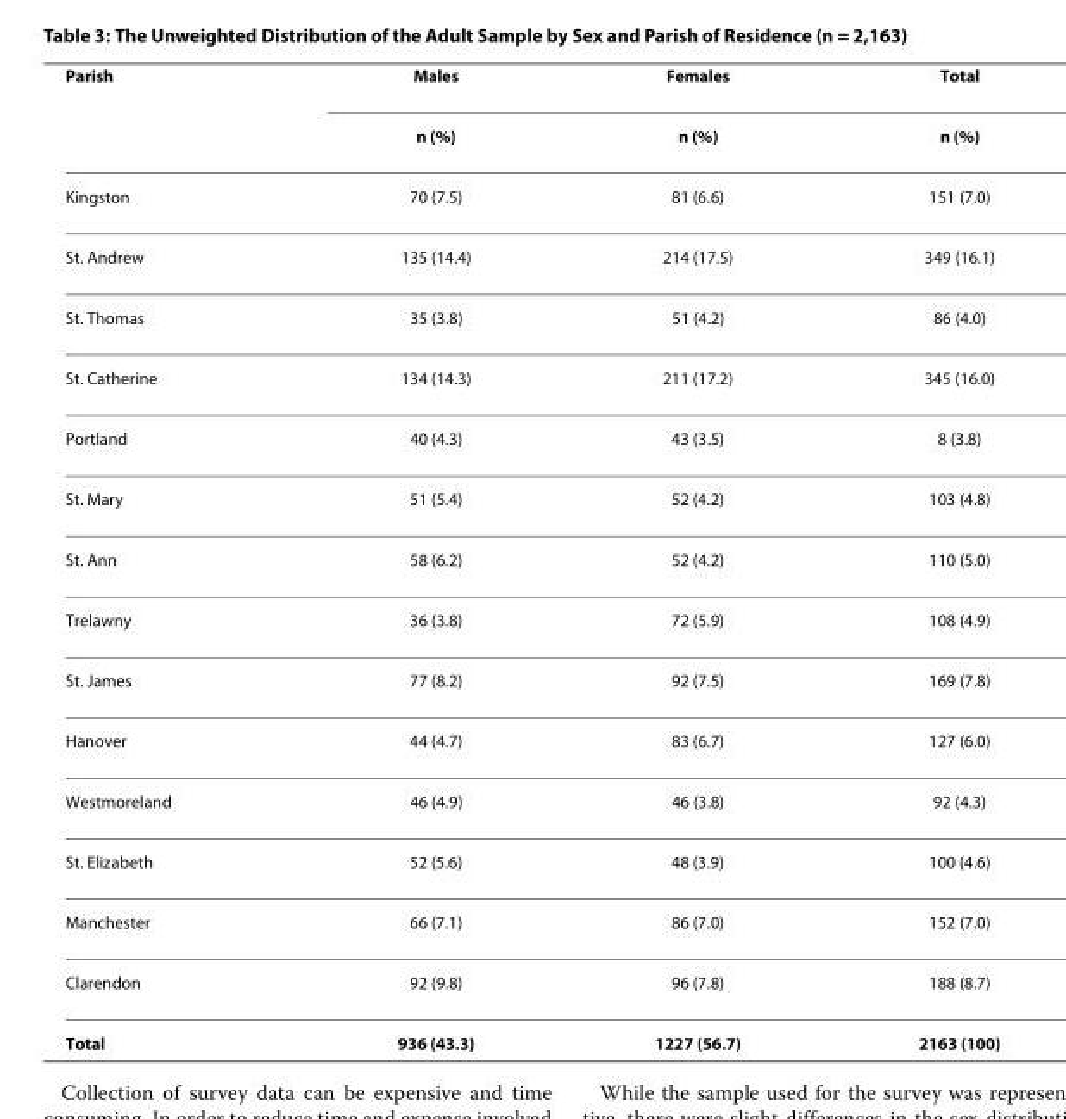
<table><thead><tr><td rowspan="2">Parish</td><td rowspan="2">Males n (%)</td><td rowspan="2">Females n (%)</td><td rowspan="2">Total n (%)</td></tr><tr></tr></thead><tbody><tr><td>Kingston</td><td>70 (7.5)</td><td>81 (6.6)</td><td>151 (7.0)</td></tr><tr><td>St. Andrew</td><td>135 (14.4)</td><td>214 (17.5)</td><td>349 (16.1)</td></tr><tr><td>St. Thomas</td><td>35 (3.8)</td><td>51 (4.2)</td><td>86 (4.0)</td></tr><tr><td>St. Catherine</td><td>134 (14.3)</td><td>211 (17.2)</td><td>345 (16.0)</td></tr><tr><td>Portland</td><td>40 (4.3)</td><td>43 (3.5)</td><td>8 (3.8)</td></tr><tr><td>St. Mary</td><td>51 (5.4)</td><td>52 (4.2)</td><td>103 (4.8)</td></tr><tr><td>St. Ann</td><td>58 (6.2)</td><td>52 (4.2)</td><td>110 (5.0)</td></tr><tr><td>Trelawny</td><td>36 (3.8)</td><td>72 (5.9)</td><td>108 (4.9)</td></tr><tr><td>St. James</td><td>77 (8.2)</td><td>92 (7.5)</td><td>169 (7.8)</td></tr><tr><td>Hanover</td><td>44 (4.7)</td><td>83 (6.7)</td><td>127 (6.0)</td></tr><tr><td>Westmoreland</td><td>46 (4.9)</td><td>46 (3.8)</td><td>92 (4.3)</td></tr><tr><td>St. Elizabeth</td><td>52 (5.6)</td><td>48 (3.9)</td><td>100 (4.6)</td></tr><tr><td>Manchester</td><td>66 (7.1)</td><td>86 (7.0)</td><td>152 (7.0)</td></tr><tr><td>Clarendon</td><td>92 (9.8)</td><td>96 (7.8)</td><td>188 (8.7)</td></tr><tr><td>Total</td><td>936 (43.3)</td><td>1227 (56.7)</td><td>2163 (100)</td></tr></tbody></table>